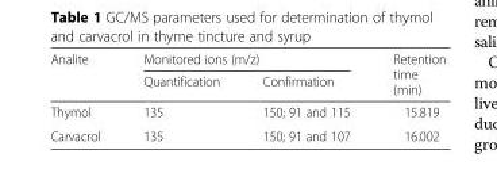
<table><thead><tr><td rowspan="2">Analite</td><td colspan="2">Monitored ions (m/z)</td><td rowspan="2">Retention time (min)</td></tr><tr><td>Quantification</td><td>Confirmation</td></tr></thead><tbody><tr><td>Thymol</td><td>135</td><td>150; 91 and 115</td><td>15.819</td></tr><tr><td>Carvacrol</td><td>135</td><td>150; 91 and 107</td><td>16.002</td></tr></tbody></table>